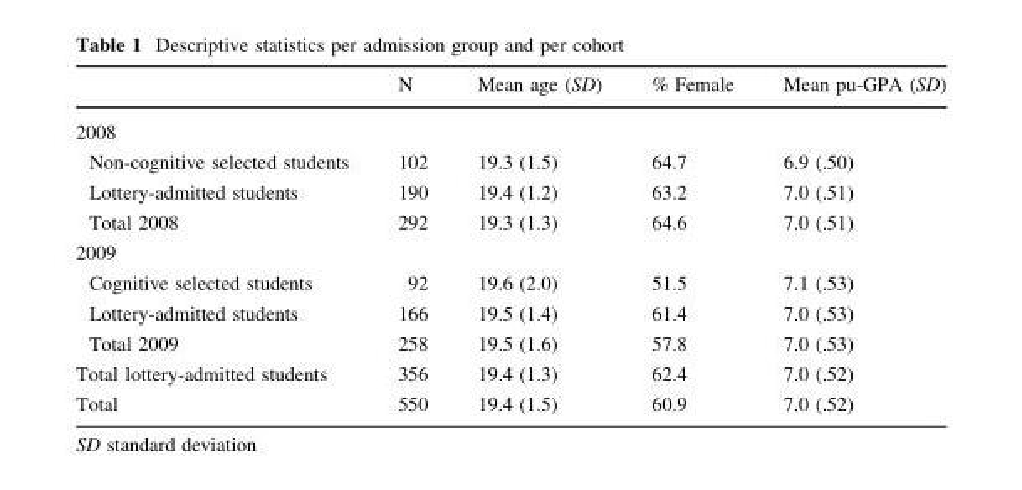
<table><thead><tr><td></td><td>N</td><td>Mean age (SD)</td><td>% Female</td><td>Mean pu-GPA (SD)</td></tr></thead><tbody><tr><td colspan="5">2008</td></tr><tr><td>Non-cognitive selected students</td><td>102</td><td>19.3 (1.5)</td><td>64.7</td><td>6.9 (.50)</td></tr><tr><td>Lottery-admitted students</td><td>190</td><td>19.4 (1.2)</td><td>63.2</td><td>7.0 (.51)</td></tr><tr><td>Total 2008</td><td>292</td><td>19.3 (1.3)</td><td>64.6</td><td>7.0 (.51)</td></tr><tr><td colspan="5">2009</td></tr><tr><td>Cognitive selected students</td><td>92</td><td>19.6 (2.0)</td><td>51.5</td><td>7.1 (.53)</td></tr><tr><td>Lottery-admitted students</td><td>166</td><td>19.5 (1.4)</td><td>61.4</td><td>7.0 (.53)</td></tr><tr><td>Total 2009</td><td>258</td><td>19.5 (1.6)</td><td>57.8</td><td>7.0 (.53)</td></tr><tr><td>Total lottery-admitted students</td><td>356</td><td>19.4 (1.3)</td><td>62.4</td><td>7.0 (.52)</td></tr><tr><td>Total</td><td>550</td><td>19.4 (1.5)</td><td>60.9</td><td>7.0 (.52)</td></tr></tbody></table>